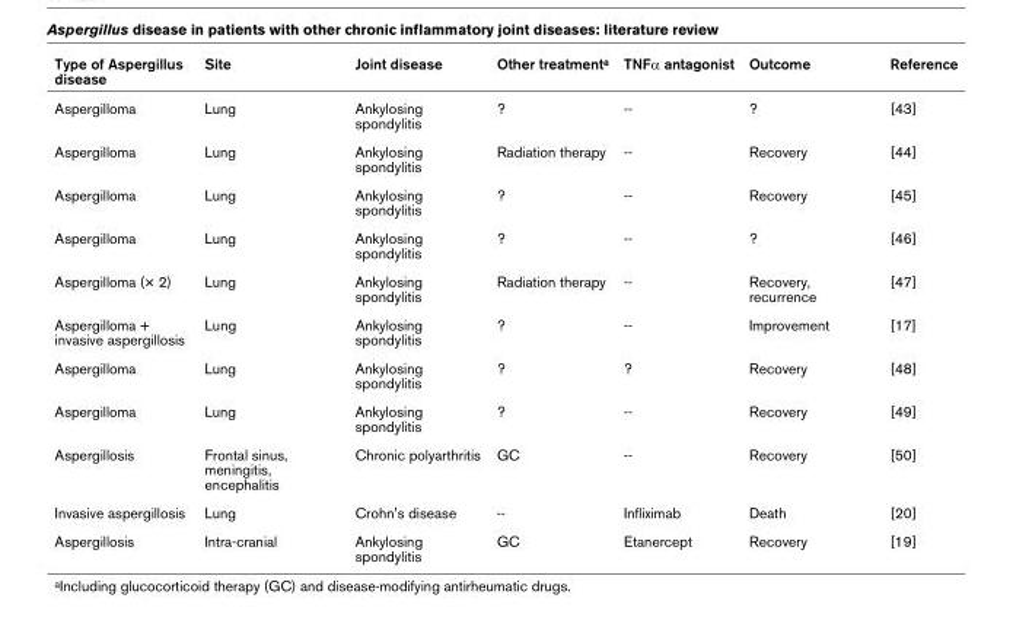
<table><thead><tr><td>Type of Aspergillus disease</td><td>Site</td><td>Joint disease</td><td>Other treatment<sup>a</sup></td><td>TNFα antagonist</td><td>Outcome</td><td>Reference</td></tr></thead><tbody><tr><td>Aspergilloma</td><td>Lung</td><td>Ankylosing spondylitis</td><td>?</td><td>--</td><td>?</td><td>[43]</td></tr><tr><td>Aspergilloma</td><td>Lung</td><td>Ankylosing spondylitis</td><td>Radiation therapy</td><td>--</td><td>Recovery</td><td>[44]</td></tr><tr><td>Aspergilloma</td><td>Lung</td><td>Ankylosing spondylitis</td><td>?</td><td>--</td><td>Recovery</td><td>[45]</td></tr><tr><td>Aspergilloma</td><td>Lung</td><td>Ankylosing spondylitis</td><td>?</td><td>--</td><td>?</td><td>[46]</td></tr><tr><td>Aspergilloma (× 2)</td><td>Lung</td><td>Ankylosing spondylitis</td><td>Radiation therapy</td><td>--</td><td>Recovery, recurrence</td><td>[47]</td></tr><tr><td>Aspergilloma + invasive aspergillosis</td><td>Lung</td><td>Ankylosing spondylitis</td><td>?</td><td>--</td><td>Improvement</td><td>[17]</td></tr><tr><td>Aspergilloma</td><td>Lung</td><td>Ankylosing spondylitis</td><td>?</td><td>?</td><td>Recovery</td><td>[48]</td></tr><tr><td>Aspergilloma</td><td>Lung</td><td>Ankylosing spondylitis</td><td>?</td><td>--</td><td>Recovery</td><td>[49]</td></tr><tr><td>Aspergillosis</td><td>Frontal sinus, meningitis, encephalitis</td><td>Chronic polyarthritis</td><td>GC</td><td>--</td><td>Recovery</td><td>[50]</td></tr><tr><td>Invasive aspergillosis</td><td>Lung</td><td>Crohn&#x27;s disease</td><td>--</td><td>Infliximab</td><td>Death</td><td>[20]</td></tr><tr><td>Aspergillosis</td><td>Intra-cranial</td><td>Ankylosing spondylitis</td><td>GC</td><td>Etanercept</td><td>Recovery</td><td>[19]</td></tr></tbody></table>